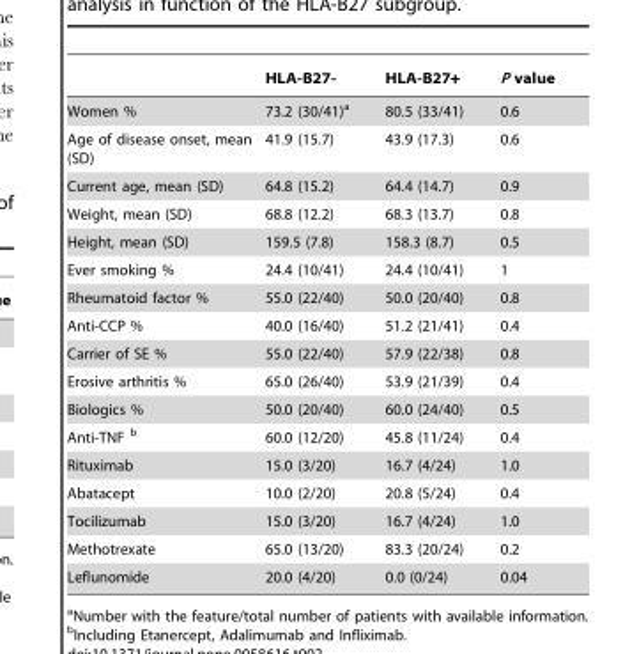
<table><thead><tr><td></td><td>HLA-B27-</td><td>HLA-B27+</td><td>P value</td></tr></thead><tbody><tr><td>Women %</td><td>73.2 (30/41)<sup>a</sup></td><td>80.5 (33/41)</td><td>0.6</td></tr><tr><td>Age of disease onset, mean (SD)</td><td>41.9 (15.7)</td><td>43.9 (17.3)</td><td>0.6</td></tr><tr><td>Current age, mean (SD)</td><td>64.8 (15.2)</td><td>64.4 (14.7)</td><td>0.9</td></tr><tr><td>Weight, mean (SD)</td><td>68.8 (12.2)</td><td>68.3 (13.7)</td><td>0.8</td></tr><tr><td>Height, mean (SD)</td><td>159.5 (7.8)</td><td>158.3 (8.7)</td><td>0.5</td></tr><tr><td>Ever smoking %</td><td>24.4 (10/41)</td><td>24.4 (10/41)</td><td>1</td></tr><tr><td>Rheumatoid factor %</td><td>55.0 (22/40)</td><td>50.0 (20/40)</td><td>0.8</td></tr><tr><td>Anti-CCP %</td><td>40.0 (16/40)</td><td>51.2 (21/41)</td><td>0.4</td></tr><tr><td>Carrier of SE %</td><td>55.0 (22/40)</td><td>57.9 (22/38)</td><td>0.8</td></tr><tr><td>Erosive arthritis %</td><td>65.0 (26/40)</td><td>53.9 (21/39)</td><td>0.4</td></tr><tr><td>Biologics %</td><td>50.0 (20/40)</td><td>60.0 (24/40)</td><td>0.5</td></tr><tr><td>Anti-TNF b</td><td>60.0 (12/20)</td><td>45.8 (11/24)</td><td>0.4</td></tr><tr><td>Rituximab</td><td>15.0 (3/20)</td><td>16.7 (4/24)</td><td>1.0</td></tr><tr><td>Abatacept</td><td>10.0 (2/20)</td><td>20.8 (5/24)</td><td>0.4</td></tr><tr><td>Tocilizumab</td><td>15.0 (3/20)</td><td>16.7 (4/24)</td><td>1.0</td></tr><tr><td>Methotrexate</td><td>65.0 (13/20)</td><td>83.3 (20/24)</td><td>0.2</td></tr><tr><td>Leflunomide</td><td>20.0 (4/20)</td><td>0.0 (0/24)</td><td>0.04</td></tr></tbody></table>